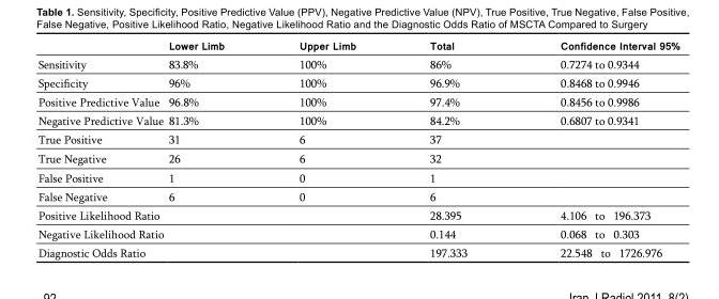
<table><thead><tr><td></td><td>Lower Limb</td><td>Upper Limb</td><td>Total</td><td>Confidence Interval 95%</td></tr></thead><tbody><tr><td>Sensitivity</td><td>83.8%</td><td>100%</td><td>86%</td><td>0.7274 to 0.9344</td></tr><tr><td>Specificity</td><td>96%</td><td>100%</td><td>96.9%</td><td>0.8468 to 0.9946</td></tr><tr><td>Positive Predictive Value</td><td>96.8%</td><td>100%</td><td>97.4%</td><td>0.8456 to 0.9986</td></tr><tr><td>Negative Predictive Value</td><td>81.3%</td><td>100%</td><td>84.2%</td><td>0.6807 to 0.9341</td></tr><tr><td>True Positive</td><td>31</td><td>6</td><td>37</td><td></td></tr><tr><td>True Negative</td><td>26</td><td>6</td><td>32</td><td></td></tr><tr><td>False Positive</td><td>1</td><td>0</td><td>1</td><td></td></tr><tr><td>False Negative</td><td>6</td><td>0</td><td>6</td><td></td></tr><tr><td>Positive Likelihood Ratio</td><td></td><td></td><td>28.395</td><td>4.106 to 196.373</td></tr><tr><td>Negative Likelihood Ratio</td><td></td><td></td><td>0.144</td><td>0.068 to 0.303</td></tr><tr><td>Diagnostic Odds Ratio</td><td></td><td></td><td>197.333</td><td>22.548 to 1726.976</td></tr></tbody></table>